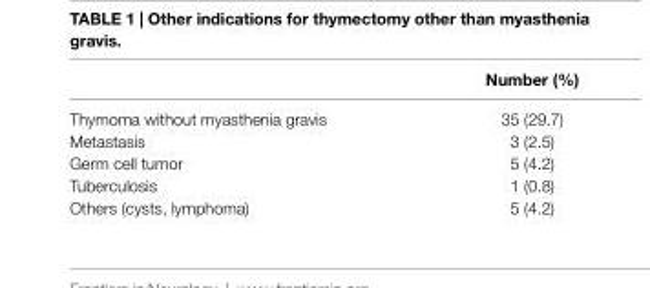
<table><thead><tr><td></td><td>number (%)</td></tr></thead><tbody><tr><td>Thymoma without myasthenia gravis</td><td>35 (29.7)</td></tr><tr><td>Metastasis</td><td>3 (2.5)</td></tr><tr><td>Germ cell tumor</td><td>5 (4.2)</td></tr><tr><td>Tuberculosis</td><td>1 (0.8)</td></tr><tr><td>Others (cysts, lymphoma)</td><td>5 (4.2)</td></tr></tbody></table>